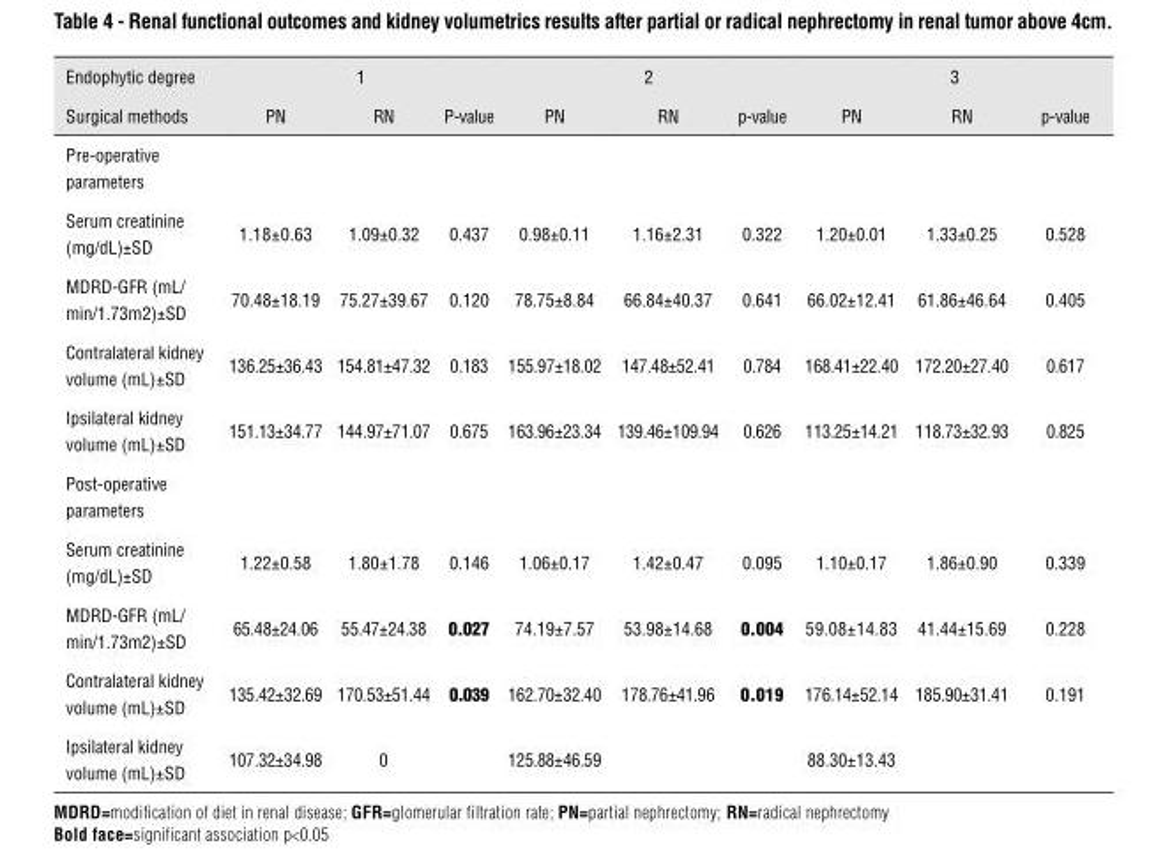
<table><thead><tr><td rowspan="2">Endophytic degree Surgical methods</td><td colspan="3">1</td><td colspan="3">2</td><td colspan="3">3</td></tr><tr><td>PN</td><td>RN</td><td>P-value</td><td>PN</td><td>RN</td><td>p-value</td><td>PN</td><td>RN</td><td>p-value</td></tr></thead><tbody><tr><td colspan="10">Pre-operative parameters</td></tr><tr><td>Serum creatinine (mg/dL)±SD</td><td>1.18±0.63</td><td>1.09±0.32</td><td>0.437</td><td>0.98±0.11</td><td>1.16±2.31</td><td>0.322</td><td>1.20±0.01</td><td>1.33±0.25</td><td>0.528</td></tr><tr><td>MDRD-GFR (mL/ min/1.73m2)±SD</td><td>70.48±18.19</td><td>75.27±39.67</td><td>0.120</td><td>78.75±8.84</td><td>66.84±40.37</td><td>0.641</td><td>66.02±12.41</td><td>61.86±46.64</td><td>0.405</td></tr><tr><td>Contralateral kidney volume (mL)±SD</td><td>136.25±36.43</td><td>154.81±47.32</td><td>0.183</td><td>155.97±18.02</td><td>147.48±52.41</td><td>0.784</td><td>168.41±22.40</td><td>172.20±27.40</td><td>0.617</td></tr><tr><td>Ipsilateral kidney volume (mL)±SD</td><td>151.13±34.77</td><td>144.97±71.07</td><td>0.675</td><td>163.96±23.34</td><td>139.46±109.94</td><td>0.626</td><td>113.25±14.21</td><td>118.73±32.93</td><td>0.825</td></tr><tr><td colspan="10">Post-operative parameters</td></tr><tr><td>Serum creatinine (mg/dL)±SD</td><td>1.22±0.58</td><td>1.80±1.78</td><td>0.146</td><td>1.06±0.17</td><td>1.42±0.47</td><td>0.095</td><td>1.10±0.17</td><td>1.86±0.90</td><td>0.339</td></tr><tr><td>MDRD-GFR (mL/ min/1.73m2)±SD</td><td>65.48±24.06</td><td>55.47±24.38</td><td>0.027</td><td>74.19±7.57</td><td>53.98±14.68</td><td>0.004</td><td>59.08±14.83</td><td>41.44±15.69</td><td>0.228</td></tr><tr><td>Contralateral kidney volume (mL)±SD</td><td>135.42±32.69</td><td>170.53±51.44</td><td>0.039</td><td>162.70±32.40</td><td>178.76±41.96</td><td>0.019</td><td>176.14±52.14</td><td>185.90±31.41</td><td>0.191</td></tr><tr><td>Ipsilateral kidney volume (mL)±SD</td><td>107.32±34.98</td><td>0</td><td></td><td>125.88±46.59</td><td></td><td></td><td>88.30±13.43</td><td></td><td></td></tr></tbody></table>